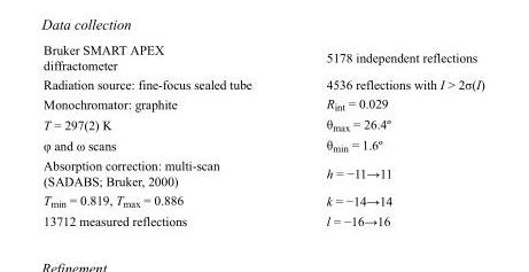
<table><tbody><tr><td>Bruker SMART APEX diffractometer</td><td>5178 independent reflections</td></tr><tr><td>Radiation source: fine-focus sealed tube</td><td>4536 reflections with I &gt; 2σ(I)</td></tr><tr><td>Monochromator: graphite</td><td>R<sub>int</sub> = 0.029</td></tr><tr><td>T = 297(2) K</td><td>θ<sub>max</sub> = 26.4º</td></tr><tr><td>φ and ω scans</td><td>θ<sub>min</sub> = 1.6º</td></tr><tr><td>Absorption correction: multi-scan (SADABS; Bruker, 2000)</td><td>h = −11→11</td></tr><tr><td>T<sub>min</sub> = 0.819, T<sub>max</sub> = 0.886</td><td>k = −14→14</td></tr><tr><td>13712 measured reflections</td><td>l = −16→16</td></tr></tbody></table>